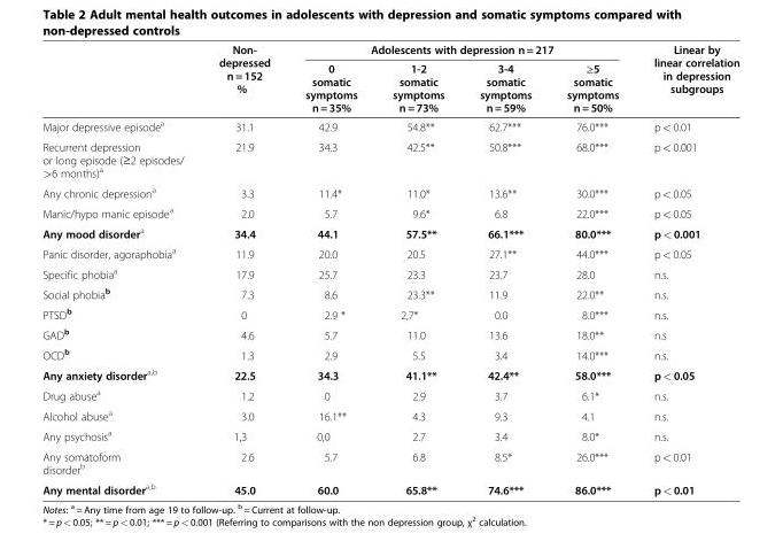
<table><thead><tr><td rowspan="2"></td><td rowspan="2">Non- depressed n = 152 %</td><td colspan="4">Adolescents with depression n = 217</td><td rowspan="2">Linear by linear correlation in depression subgroups</td></tr><tr><td>0 somatic symptoms n = 35%</td><td>1-2 somatic symptoms n = 73%</td><td>3-4 somatic symptoms n = 59%</td><td>≥5 somatic symptoms n = 50%</td></tr></thead><tbody><tr><td>Major depressive episode<sup>a</sup></td><td>31.1</td><td>42.9</td><td>54.8**</td><td>62.7***</td><td>76.0***</td><td>p &lt; 0.01</td></tr><tr><td>Recurrent depression or long episode (≥2 episodes/ &gt;6 months)<sup>a</sup></td><td>21.9</td><td>34.3</td><td>42.5**</td><td>50.8***</td><td>68.0***</td><td>p &lt; 0.001</td></tr><tr><td>Any chronic depression<sup>a</sup></td><td>3.3</td><td>11.4*</td><td>11.0*</td><td>13.6**</td><td>30.0***</td><td>p &lt; 0.05</td></tr><tr><td>Manic/hypo manic episode<sup>a</sup></td><td>2.0</td><td>5.7</td><td>9.6*</td><td>6.8</td><td>22.0***</td><td>p &lt; 0.05</td></tr><tr><td>Any mood disorder<sup>a</sup></td><td>34.4</td><td>44.1</td><td>57.5**</td><td>66.1***</td><td>80.0***</td><td>p &lt; 0.001</td></tr><tr><td>Panic disorder, agoraphobia<sup>a</sup></td><td>11.9</td><td>20.0</td><td>20.5</td><td>27.1**</td><td>44.0***</td><td>p &lt; 0.05</td></tr><tr><td>Specific phobia<sup>a</sup></td><td>17.9</td><td>25.7</td><td>23.3</td><td>23.7</td><td>28.0</td><td>n.s.</td></tr><tr><td>Social phobia<sup>b</sup></td><td>7.3</td><td>8.6</td><td>23.3**</td><td>11.9</td><td>22.0**</td><td>n.s.</td></tr><tr><td>PTSD<sup>b</sup></td><td>0</td><td>2.9 *</td><td>2,7*</td><td>0.0</td><td>8.0***</td><td>n.s.</td></tr><tr><td>GAD<sup>b</sup></td><td>4.6</td><td>5.7</td><td>11.0</td><td>13.6</td><td>18.0**</td><td>n.s</td></tr><tr><td>OCD<sup>b</sup></td><td>1.3</td><td>2.9</td><td>5.5</td><td>3.4</td><td>14.0***</td><td>n.s.</td></tr><tr><td>Any anxiety disorder<sup>a,b</sup></td><td>22.5</td><td>34.3</td><td>41.1**</td><td>42.4**</td><td>58.0***</td><td>p &lt; 0.05</td></tr><tr><td>Drug abuse<sup>a</sup></td><td>1.2</td><td>0</td><td>2.9</td><td>3.7</td><td>6.1*</td><td>n.s.</td></tr><tr><td>Alcohol abuse<sup>a</sup></td><td>3.0</td><td>16.1**</td><td>4.3</td><td>9.3</td><td>4.1</td><td>n.s.</td></tr><tr><td>Any psychosis<sup>a</sup></td><td>1,3</td><td>0,0</td><td>2.7</td><td>3.4</td><td>8.0*</td><td>n.s.</td></tr><tr><td>Any somatoform disorder<sup>b</sup></td><td>2.6</td><td>5.7</td><td>6.8</td><td>8.5*</td><td>26.0***</td><td>p &lt; 0.01</td></tr><tr><td>Any mental disorder<sup>a,b</sup></td><td>45.0</td><td>60.0</td><td>65.8**</td><td>74.6***</td><td>86.0***</td><td>p &lt; 0.01</td></tr></tbody></table>